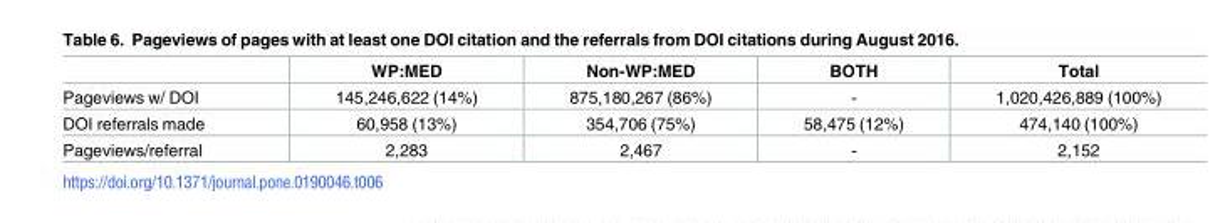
<table><thead><tr><td></td><td>WP:MED</td><td>Non-WP:MED</td><td>BOTH</td><td>Total</td></tr></thead><tbody><tr><td>Pageviews w/ DOI</td><td>145,246,622 (14%)</td><td>875,180,267 (86%)</td><td>-</td><td>1,020,426,889 (100%)</td></tr><tr><td>DOI referrals made</td><td>60,958 (13%)</td><td>354,706 (75%)</td><td>58,475 (12%)</td><td>474,140 (100%)</td></tr><tr><td>Pageviews/referral</td><td>2,283</td><td>2,467</td><td>-</td><td>2,152</td></tr></tbody></table>